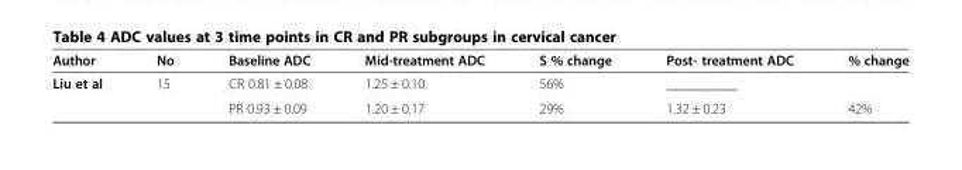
<table><thead><tr><td>Author</td><td>No</td><td>Baseline ADC</td><td>Mid-treatment ADC</td><td>S % change</td><td>Post- treatment ADC</td><td>% change</td></tr></thead><tbody><tr><td rowspan="2">Liu et al</td><td rowspan="2">15</td><td>CR 0.81 ± 0.08</td><td>1.25 ± 0.10</td><td>56%</td><td>__________</td><td></td></tr><tr><td>PR 0.93 ± 0.09</td><td>1.20 ± 0.17</td><td>29%</td><td>1.32 ± 0.23</td><td>42%</td></tr></tbody></table>